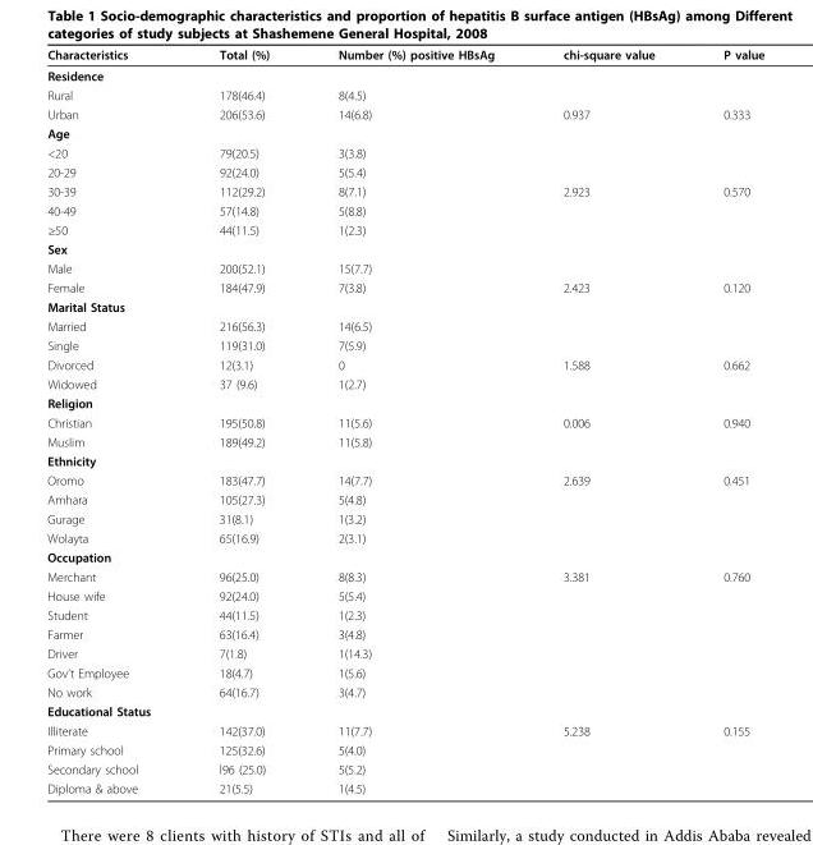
<table><thead><tr><td>Characteristics</td><td>Total (%)</td><td>Number (%) positive HBsAg</td><td>chi-square value</td><td>P value</td></tr></thead><tbody><tr><td colspan="5">Residence</td></tr><tr><td>Rural</td><td>178(46.4)</td><td>8(4.5)</td><td></td><td></td></tr><tr><td>Urban</td><td>206(53.6)</td><td>14(6.8)</td><td>0.937</td><td>0.333</td></tr><tr><td colspan="5">Age</td></tr><tr><td>&lt;20</td><td>79(20.5)</td><td>3(3.8)</td><td></td><td></td></tr><tr><td>20-29</td><td>92(24.0)</td><td>5(5.4)</td><td></td><td></td></tr><tr><td>30-39</td><td>112(29.2)</td><td>8(7.1)</td><td>2.923</td><td>0.570</td></tr><tr><td>40-49</td><td>57(14.8)</td><td>5(8.8)</td><td></td><td></td></tr><tr><td>≥50</td><td>44(11.5)</td><td>1(2.3)</td><td></td><td></td></tr><tr><td colspan="5">Sex</td></tr><tr><td>Male</td><td>200(52.1)</td><td>15(7.7)</td><td></td><td></td></tr><tr><td>Female</td><td>184(47.9)</td><td>7(3.8)</td><td>2.423</td><td>0.120</td></tr><tr><td colspan="5">Marital Status</td></tr><tr><td>Married</td><td>216(56.3)</td><td>14(6.5)</td><td></td><td></td></tr><tr><td>Single</td><td>119(31.0)</td><td>7(5.9)</td><td></td><td></td></tr><tr><td>Divorced</td><td>12(3.1)</td><td>0</td><td>1.588</td><td>0.662</td></tr><tr><td>Widowed</td><td>37 (9.6)</td><td>1(2.7)</td><td></td><td></td></tr><tr><td colspan="5">Religion</td></tr><tr><td>Christian</td><td>195(50.8)</td><td>11(5.6)</td><td>0.006</td><td>0.940</td></tr><tr><td>Muslim</td><td>189(49.2)</td><td>11(5.8)</td><td></td><td></td></tr><tr><td colspan="5">Ethnicity</td></tr><tr><td>Oromo</td><td>183(47.7)</td><td>14(7.7)</td><td>2.639</td><td>0.451</td></tr><tr><td>Amhara</td><td>105(27.3)</td><td>5(4.8)</td><td></td><td></td></tr><tr><td>Gurage</td><td>31(8.1)</td><td>1(3.2)</td><td></td><td></td></tr><tr><td>Wolayta</td><td>65(16.9)</td><td>2(3.1)</td><td></td><td></td></tr><tr><td colspan="5">Occupation</td></tr><tr><td>Merchant</td><td>96(25.0)</td><td>8(8.3)</td><td>3.381</td><td>0.760</td></tr><tr><td>House wife</td><td>92(24.0)</td><td>5(5.4)</td><td></td><td></td></tr><tr><td>Student</td><td>44(11.5)</td><td>1(2.3)</td><td></td><td></td></tr><tr><td>Farmer</td><td>63(16.4)</td><td>3(4.8)</td><td></td><td></td></tr><tr><td>Driver</td><td>7(1.8)</td><td>1(14.3)</td><td></td><td></td></tr><tr><td>Gov’t Employee</td><td>18(4.7)</td><td>1(5.6)</td><td></td><td></td></tr><tr><td>No work</td><td>64(16.7)</td><td>3(4.7)</td><td></td><td></td></tr><tr><td colspan="5">Educational Status</td></tr><tr><td>Illiterate</td><td>142(37.0)</td><td>11(7.7)</td><td>5.238</td><td>0.155</td></tr><tr><td>Primary school</td><td>125(32.6)</td><td>5(4.0)</td><td></td><td></td></tr><tr><td>Secondary school</td><td>l96 (25.0)</td><td>5(5.2)</td><td></td><td></td></tr><tr><td>Diploma &amp; above</td><td>21(5.5)</td><td>1(4.5)</td><td></td><td></td></tr></tbody></table>